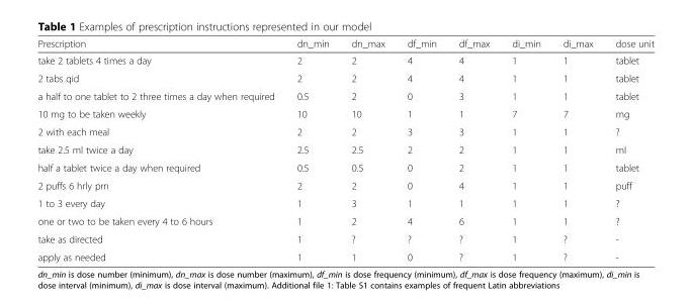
<table><thead><tr><td>Prescription</td><td>dn_min</td><td>dn_max</td><td>df_min</td><td>df_max</td><td>di_min</td><td>di_max</td><td>dose unit</td></tr></thead><tbody><tr><td>take 2 tablets 4 times a day</td><td>2</td><td>2</td><td>4</td><td>4</td><td>1</td><td>1</td><td>tablet</td></tr><tr><td>2 tabs qid</td><td>2</td><td>2</td><td>4</td><td>4</td><td>1</td><td>1</td><td>tablet</td></tr><tr><td>a half to one tablet to 2 three times a day when required</td><td>0.5</td><td>2</td><td>0</td><td>3</td><td>1</td><td>1</td><td>tablet</td></tr><tr><td>10 mg to be taken weekly</td><td>10</td><td>10</td><td>1</td><td>1</td><td>7</td><td>7</td><td>mg</td></tr><tr><td>2 with each meal</td><td>2</td><td>2</td><td>3</td><td>3</td><td>1</td><td>1</td><td>?</td></tr><tr><td>take 2.5 ml twice a day</td><td>2.5</td><td>2.5</td><td>2</td><td>2</td><td>1</td><td>1</td><td>ml</td></tr><tr><td>half a tablet twice a day when required</td><td>0.5</td><td>0.5</td><td>0</td><td>2</td><td>1</td><td>1</td><td>tablet</td></tr><tr><td>2 puffs 6 hrly prn</td><td>2</td><td>2</td><td>0</td><td>4</td><td>1</td><td>1</td><td>puff</td></tr><tr><td>1 to 3 every day</td><td>1</td><td>3</td><td>1</td><td>1</td><td>1</td><td>1</td><td>?</td></tr><tr><td>one or two to be taken every 4 to 6 hours</td><td>1</td><td>2</td><td>4</td><td>6</td><td>1</td><td>1</td><td>?</td></tr><tr><td>take as directed</td><td>1</td><td>?</td><td>?</td><td>?</td><td>1</td><td>?</td><td>-</td></tr><tr><td>apply as needed</td><td>1</td><td>1</td><td>0</td><td>?</td><td>1</td><td>?</td><td>-</td></tr></tbody></table>